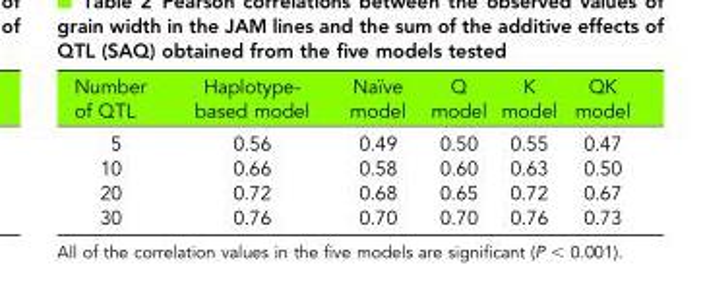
<table><thead><tr><td>Number of QTL</td><td>Haplotype- based model</td><td>Naïve model</td><td>Q model</td><td>K model</td><td>QK model</td></tr></thead><tbody><tr><td>5</td><td>0.56</td><td>0.49</td><td>0.50</td><td>0.55</td><td>0.47</td></tr><tr><td>10</td><td>0.66</td><td>0.58</td><td>0.60</td><td>0.63</td><td>0.50</td></tr><tr><td>20</td><td>0.72</td><td>0.68</td><td>0.65</td><td>0.72</td><td>0.67</td></tr><tr><td>30</td><td>0.76</td><td>0.70</td><td>0.70</td><td>0.76</td><td>0.73</td></tr></tbody></table>